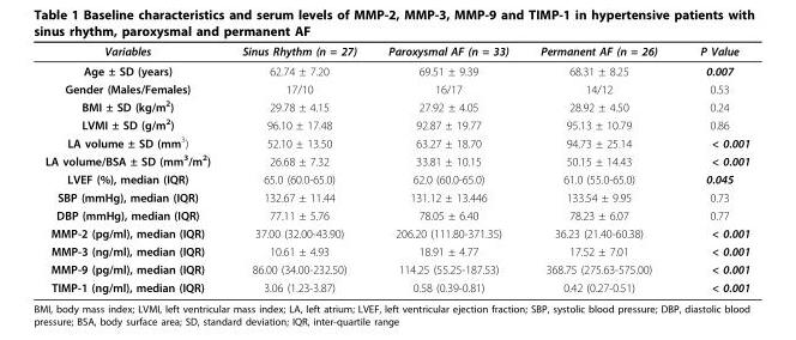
<table><thead><tr><td>Variables</td><td>Sinus Rhythm (n = 27)</td><td>Paroxysmal AF (n = 33)</td><td>Permanent AF (n = 26)</td><td>P Value</td></tr></thead><tbody><tr><td>Age ± SD (years)</td><td>62.74 ± 7.20</td><td>69.51 ± 9.39</td><td>68.31 ± 8.25</td><td>0.007</td></tr><tr><td>Gender (Males/Females)</td><td>17/10</td><td>16/17</td><td>14/12</td><td>0.53</td></tr><tr><td>BMI ± SD (kg/m<sup>2</sup>)</td><td>29.78 ± 4.15</td><td>27.92 ± 4.05</td><td>28.92 ± 4.50</td><td>0.24</td></tr><tr><td>LVMI ± SD (g/m<sup>2</sup>)</td><td>96.10 ± 17.48</td><td>92.87 ± 19.77</td><td>95.13 ± 10.79</td><td>0.86</td></tr><tr><td>LA volume ± SD (mm<sup>3</sup>)</td><td>52.10 ± 13.50</td><td>63.27 ± 18.70</td><td>94.73 ± 25.14</td><td>&lt; 0.001</td></tr><tr><td>LA volume/BSA ± SD (mm<sup>3</sup>/m<sup>2</sup>)</td><td>26.68 ± 7.32</td><td>33.81 ± 10.15</td><td>50.15 ± 14.43</td><td>&lt; 0.001</td></tr><tr><td>LVEF (%), median (IQR)</td><td>65.0 (60.0-65.0)</td><td>62.0 (60.0-65.0)</td><td>61.0 (55.0-65.0)</td><td>0.045</td></tr><tr><td>SBP (mmHg), median (IQR)</td><td>132.67 ± 11.44</td><td>131.12 ± 13.446</td><td>133.54 ± 9.95</td><td>0.73</td></tr><tr><td>DBP (mmHg), median (IQR)</td><td>77.11 ± 5.76</td><td>78.05 ± 6.40</td><td>78.23 ± 6.07</td><td>0.77</td></tr><tr><td>MMP-2 (pg/ml), median (IQR)</td><td>37.00 (32.00-43.90)</td><td>206.20 (111.80-371.35)</td><td>36.23 (21.40-60.38)</td><td>&lt; 0.001</td></tr><tr><td>MMP-3 (ng/ml), median (IQR)</td><td>10.61 ± 4.93</td><td>18.91 ± 4.77</td><td>17.52 ± 7.01</td><td>&lt; 0.001</td></tr><tr><td>MMP-9 (pg/ml), median (IQR)</td><td>86.00 (34.00-232.50)</td><td>114.25 (55.25-187.53)</td><td>368.75 (275.63-575.00)</td><td>&lt; 0.001</td></tr><tr><td>TIMP-1 (ng/ml), median (IQR)</td><td>3.06 (1.23-3.87)</td><td>0.58 (0.39-0.81)</td><td>0.42 (0.27-0.51)</td><td>&lt; 0.001</td></tr></tbody></table>